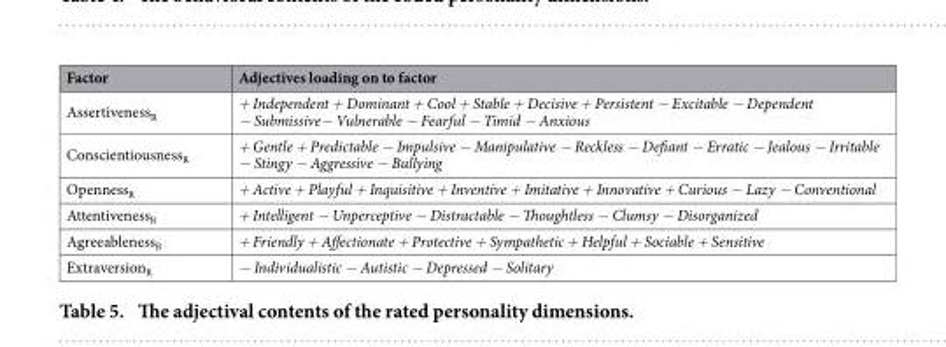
<table><thead><tr><td>Factor</td><td>Adjectives loading on to factor</td></tr></thead><tbody><tr><td>Assertiveness<sub>R</sub></td><td>+ Independent + Dominant + Cool + Stable + Decisive + Persistent − Excitable − Dependent − Submissive− Vulnerable − Fearful − Timid − Anxious</td></tr><tr><td>Conscientiousness<sub>R</sub></td><td>+ Gentle + Predictable − Impulsive − Manipulative − Reckless − Defiant − Erratic − Jealous − Irritable − Stingy − Aggressive − Bullying</td></tr><tr><td>Openness<sub>R</sub></td><td>+ Active + Playful + Inquisitive + Inventive + Imitative + Innovative + Curious − Lazy − Conventional</td></tr><tr><td>Attentiveness<sub>R</sub></td><td>+ Intelligent − Unperceptive − Distractable − Thoughtless − Clumsy − Disorganized</td></tr><tr><td>Agreeableness<sub>R</sub></td><td>+ Friendly + Affectionate + Protective + Sympathetic + Helpful + Sociable + Sensitive</td></tr><tr><td>Extraversion<sub>R</sub></td><td>− Individualistic − Autistic − Depressed − Solitary</td></tr></tbody></table>